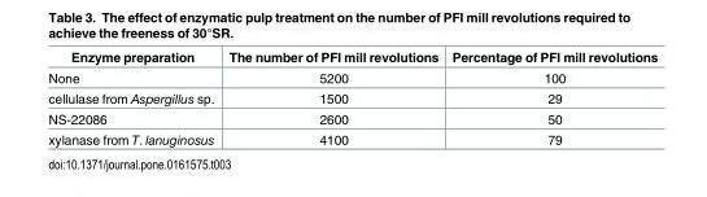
<table><thead><tr><td>Enzyme preparation</td><td>The number of PFI mill revolutions</td><td>Percentage of PFI mill revolutions</td></tr></thead><tbody><tr><td>None</td><td>5200</td><td>100</td></tr><tr><td>cellulase from Aspergillus sp.</td><td>1500</td><td>29</td></tr><tr><td>NS-22086</td><td>2600</td><td>50</td></tr><tr><td>xylanase from T. lanuginosus</td><td>4100</td><td>79</td></tr></tbody></table>